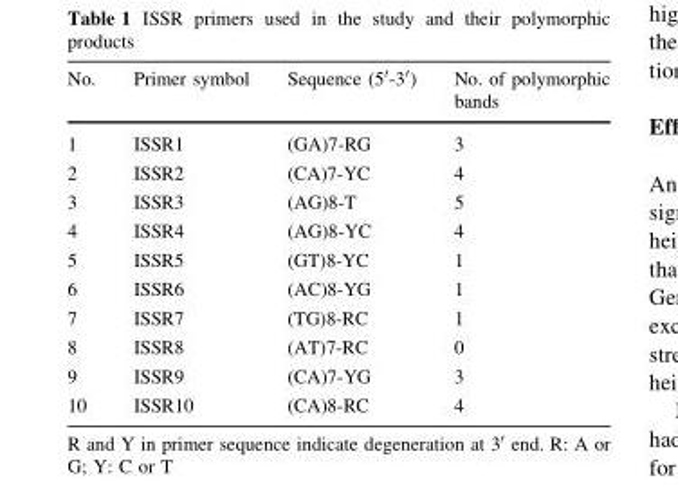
<table><thead><tr><td>No.</td><td>Primer symbol</td><td>Sequence (5′-3′)</td><td>No. of polymorphic bands</td></tr></thead><tbody><tr><td>1</td><td>ISSR1</td><td>(GA)7-RG</td><td>3</td></tr><tr><td>2</td><td>ISSR2</td><td>(CA)7-YC</td><td>4</td></tr><tr><td>3</td><td>ISSR3</td><td>(AG)8-T</td><td>5</td></tr><tr><td>4</td><td>ISSR4</td><td>(AG)8-YC</td><td>4</td></tr><tr><td>5</td><td>ISSR5</td><td>(GT)8-YC</td><td>1</td></tr><tr><td>6</td><td>ISSR6</td><td>(AC)8-YG</td><td>1</td></tr><tr><td>7</td><td>ISSR7</td><td>(TG)8-RC</td><td>1</td></tr><tr><td>8</td><td>ISSR8</td><td>(AT)7-RC</td><td>0</td></tr><tr><td>9</td><td>ISSR9</td><td>(CA)7-YG</td><td>3</td></tr><tr><td>10</td><td>ISSR10</td><td>(CA)8-RC</td><td>4</td></tr></tbody></table>